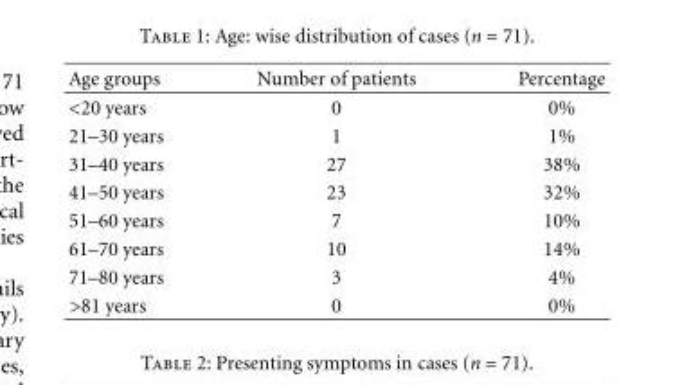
<table><thead><tr><td>Age groups</td><td>Number of patients</td><td>Percentage</td></tr></thead><tbody><tr><td>&lt;20 years</td><td>0</td><td>0%</td></tr><tr><td>21–30 years</td><td>1</td><td>1%</td></tr><tr><td>31–40 years</td><td>27</td><td>38%</td></tr><tr><td>41–50 years</td><td>23</td><td>32%</td></tr><tr><td>51–60 years</td><td>7</td><td>10%</td></tr><tr><td>61–70 years</td><td>10</td><td>14%</td></tr><tr><td>71–80 years</td><td>3</td><td>4%</td></tr><tr><td>&gt;81 years</td><td>0</td><td>0%</td></tr></tbody></table>